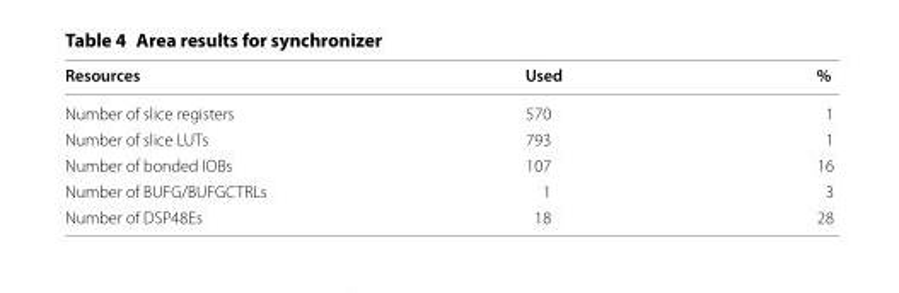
<table><thead><tr><td>Resources</td><td>Used</td><td>%</td></tr></thead><tbody><tr><td>Number of slice registers</td><td>570</td><td>1</td></tr><tr><td>Number of slice LUTs</td><td>793</td><td>1</td></tr><tr><td>Number of bonded IOBs</td><td>107</td><td>16</td></tr><tr><td>Number of BUFG/BUFGCTRLs</td><td>1</td><td>3</td></tr><tr><td>Number of DSP48Es</td><td>18</td><td>28</td></tr></tbody></table>